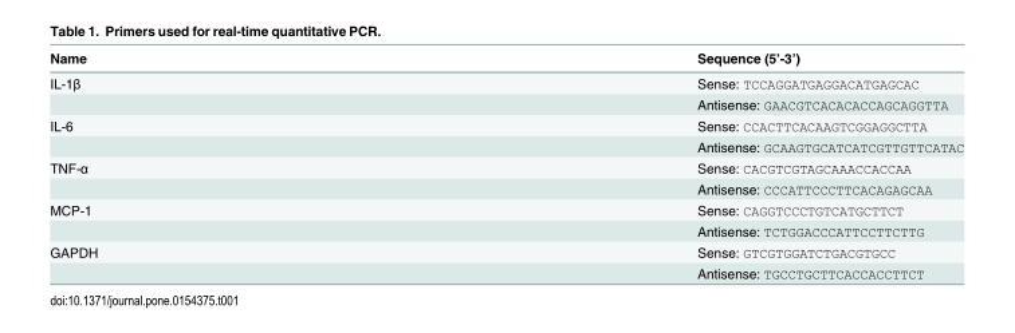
<table><thead><tr><td>Name</td><td>Sequence (5’-3’)</td></tr></thead><tbody><tr><td rowspan="2">IL-1β</td><td>Sense: TCCAGGATGAGGACATGAGCAC</td></tr><tr><td>Antisense: GAACGTCACACACCAGCAGGTTA</td></tr><tr><td rowspan="2">IL-6</td><td>Sense: CCACTTCACAAGTCGGAGGCTTA</td></tr><tr><td>Antisense: GCAAGTGCATCATCGTTGTTCATAC</td></tr><tr><td rowspan="2">TNF-α</td><td>Sense: CACGTCGTAGCAAACCACCAA</td></tr><tr><td>Antisense: CCCATTCCCTTCACAGAGCAA</td></tr><tr><td rowspan="2">MCP-1</td><td>Sense: CAGGTCCCTGTCATGCTTCT</td></tr><tr><td>Antisense: TCTGGACCCATTCCTTCTTG</td></tr><tr><td rowspan="2">GAPDH</td><td>Sense: GTCGTGGATCTGACGTGCC</td></tr><tr><td>Antisense: TGCCTGCTTCACCACCTTCT</td></tr></tbody></table>